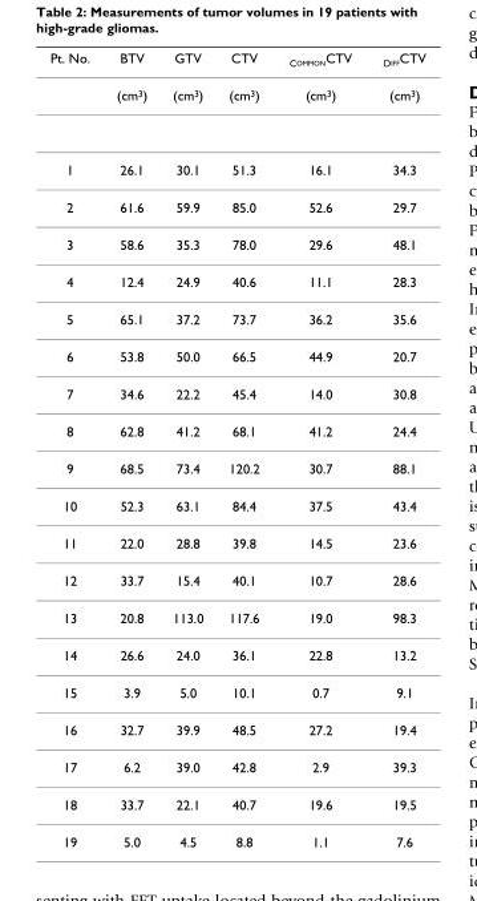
<table><thead><tr><td>Pt. No.</td><td>BTV</td><td>GTV</td><td>CTV</td><td>COMMONCTV</td><td>DIFFCTV</td></tr></thead><tbody><tr><td></td><td>(cm3)</td><td>(cm3)</td><td>(cm3)</td><td>(cm3)</td><td>(cm3)</td></tr><tr><td>1</td><td>26.1</td><td>30.1</td><td>51.3</td><td>16.1</td><td>34.3</td></tr><tr><td>2</td><td>61.6</td><td>59.9</td><td>85.0</td><td>52.6</td><td>29.7</td></tr><tr><td>3</td><td>58.6</td><td>35.3</td><td>78.0</td><td>29.6</td><td>48.1</td></tr><tr><td>4</td><td>12.4</td><td>24.9</td><td>40.6</td><td>11.1</td><td>28.3</td></tr><tr><td>5</td><td>65.1</td><td>37.2</td><td>73.7</td><td>36.2</td><td>35.6</td></tr><tr><td>6</td><td>53.8</td><td>50.0</td><td>66.5</td><td>44.9</td><td>20.7</td></tr><tr><td>7</td><td>34.6</td><td>22.2</td><td>45.4</td><td>14.0</td><td>30.8</td></tr><tr><td>8</td><td>62.8</td><td>41.2</td><td>68.1</td><td>41.2</td><td>24.4</td></tr><tr><td>9</td><td>68.5</td><td>73.4</td><td>120.2</td><td>30.7</td><td>88.1</td></tr><tr><td>10</td><td>52.3</td><td>63.1</td><td>84.4</td><td>37.5</td><td>43.4</td></tr><tr><td>11</td><td>22.0</td><td>28.8</td><td>39.8</td><td>14.5</td><td>23.6</td></tr><tr><td>12</td><td>33.7</td><td>15.4</td><td>40.1</td><td>10.7</td><td>28.6</td></tr><tr><td>13</td><td>20.8</td><td>113.0</td><td>117.6</td><td>19.0</td><td>98.3</td></tr><tr><td>14</td><td>26.6</td><td>24.0</td><td>36.1</td><td>22.8</td><td>13.2</td></tr><tr><td>15</td><td>3.9</td><td>5.0</td><td>10.1</td><td>0.7</td><td>9.1</td></tr><tr><td>16</td><td>32.7</td><td>39.9</td><td>48.5</td><td>27.2</td><td>19.4</td></tr><tr><td>17</td><td>6.2</td><td>39.0</td><td>42.8</td><td>2.9</td><td>39.3</td></tr><tr><td>18</td><td>33.7</td><td>22.1</td><td>40.7</td><td>19.6</td><td>19.5</td></tr><tr><td>19</td><td>5.0</td><td>4.5</td><td>8.8</td><td>1.1</td><td>7.6</td></tr></tbody></table>